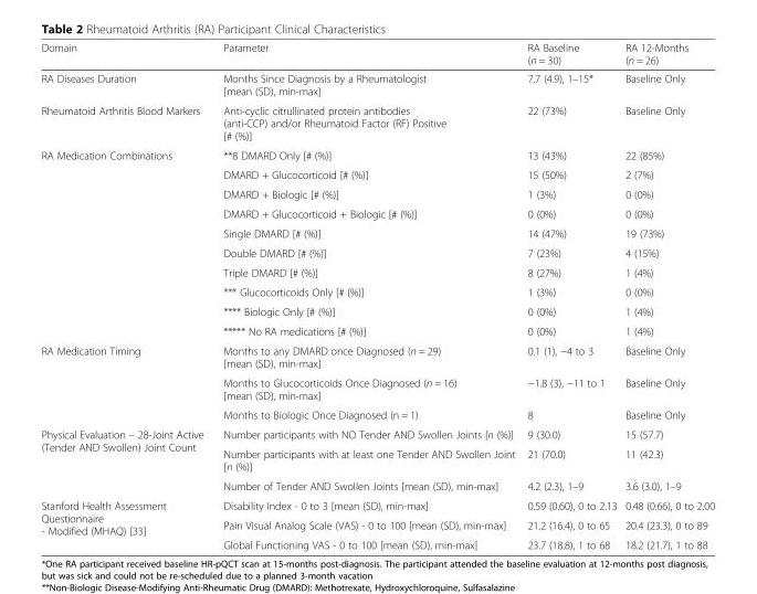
<table><thead><tr><td>Domain</td><td>Parameter</td><td>RA Baseline (n = 30)</td><td>RA 12-Months (n = 26)</td></tr></thead><tbody><tr><td>RA Diseases Duration</td><td>Months Since Diagnosis by a Rheumatologist [mean (SD), min-max]</td><td>7.7 (4.9), 1–15*</td><td>Baseline Only</td></tr><tr><td>Rheumatoid Arthritis Blood Markers</td><td>Anti-cyclic citrullinated protein antibodies (anti-CCP) and/or Rheumatoid Factor (RF) Positive [# (%)]</td><td>22 (73%)</td><td>Baseline Only</td></tr><tr><td rowspan="10">RA Medication Combinations</td><td>**8 DMARD Only [# (%)]</td><td>13 (43%)</td><td>22 (85%)</td></tr><tr><td>DMARD + Glucocorticoid [# (%)]</td><td>15 (50%)</td><td>2 (7%)</td></tr><tr><td>DMARD + Biologic [# (%)]</td><td>1 (3%)</td><td>0 (0%)</td></tr><tr><td>DMARD + Glucocorticoid + Biologic [# (%)]</td><td>0 (0%)</td><td>0 (0%)</td></tr><tr><td>Single DMARD [# (%)]</td><td>14 (47%)</td><td>19 (73%)</td></tr><tr><td>Double DMARD [# (%)]</td><td>7 (23%)</td><td>4 (15%)</td></tr><tr><td>Triple DMARD [# (%)]</td><td>8 (27%)</td><td>1 (4%)</td></tr><tr><td>*** Glucocorticoids Only [# (%)]</td><td>1 (3%)</td><td>0 (0%)</td></tr><tr><td>**** Biologic Only [# (%)]</td><td>0 (0%)</td><td>1 (4%)</td></tr><tr><td>***** No RA medications [# (%)]</td><td>0 (0%)</td><td>1 (4%)</td></tr><tr><td rowspan="3">RA Medication Timing</td><td>Months to any DMARD once Diagnosed (n = 29) [mean (SD), min-max]</td><td>0.1 (1), −4 to 3</td><td>Baseline Only</td></tr><tr><td>Months to Glucocorticoids Once Diagnosed (n = 16) [mean (SD), min-max]</td><td>−1.8 (3), −11 to 1</td><td>Baseline Only</td></tr><tr><td>Months to Biologic Once Diagnosed (n = 1)</td><td>8</td><td>Baseline Only</td></tr><tr><td rowspan="3">Physical Evaluation – 28-Joint Active (Tender AND Swollen) Joint Count</td><td>Number participants with NO Tender AND Swollen Joints [n (%)]</td><td>9 (30.0)</td><td>15 (57.7)</td></tr><tr><td>Number participants with at least one Tender AND Swollen Joint [n (%)]</td><td>21 (70.0)</td><td>11 (42.3)</td></tr><tr><td>Number of Tender AND Swollen Joints [mean (SD), min-max]</td><td>4.2 (2.3), 1–9</td><td>3.6 (3.0), 1–9</td></tr><tr><td rowspan="3">Stanford Health Assessment Questionnaire - Modified (MHAQ) [33]</td><td>Disability Index - 0 to 3 [mean (SD), min-max]</td><td>0.59 (0.60), 0 to 2.13</td><td>0.48 (0.66), 0 to 2.00</td></tr><tr><td>Pain Visual Analog Scale (VAS) - 0 to 100 [mean (SD), min-max]</td><td>21.2 (16.4), 0 to 65</td><td>20.4 (23.3), 0 to 89</td></tr><tr><td>Global Functioning VAS - 0 to 100 [mean (SD), min-max]</td><td>23.7 (18.8), 1 to 68</td><td>18.2 (21.7), 1 to 88</td></tr></tbody></table>